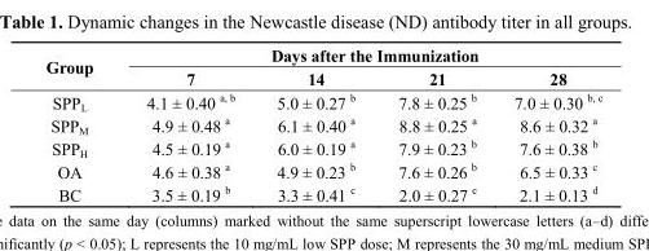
<table><thead><tr><td rowspan="2">Group</td><td colspan="4">Days after the Immunization</td></tr><tr><td>7</td><td>14</td><td>21</td><td>28</td></tr></thead><tbody><tr><td>SPP<sub>L</sub></td><td>4.1 ± 0.40 <sup>a, b</sup></td><td>5.0 ± 0.27 <sup>b</sup></td><td>7.8 ± 0.25 <sup>b</sup></td><td>7.0 ± 0.30 <sup>b, c</sup></td></tr><tr><td>SPP<sub>M</sub></td><td>4.9 ± 0.48 <sup>a</sup></td><td>6.1 ± 0.40 <sup>a</sup></td><td>8.8 ± 0.25 <sup>a</sup></td><td>8.6 ± 0.32 <sup>a</sup></td></tr><tr><td>SPP<sub>H</sub></td><td>4.5 ± 0.19 <sup>a</sup></td><td>6.0 ± 0.19 <sup>a</sup></td><td>7.9 ± 0.23 <sup>b</sup></td><td>7.6 ± 0.38 <sup>b</sup></td></tr><tr><td>OA</td><td>4.6 ± 0.38 <sup>a</sup></td><td>4.9 ± 0.23 <sup>b</sup></td><td>7.6 ± 0.26 <sup>b</sup></td><td>6.5 ± 0.33 <sup>c</sup></td></tr><tr><td>BC</td><td>3.5 ± 0.19 <sup>b</sup></td><td>3.3 ± 0.41 <sup>c</sup></td><td>2.0 ± 0.27 <sup>c</sup></td><td>2.1 ± 0.13 <sup>d</sup></td></tr></tbody></table>